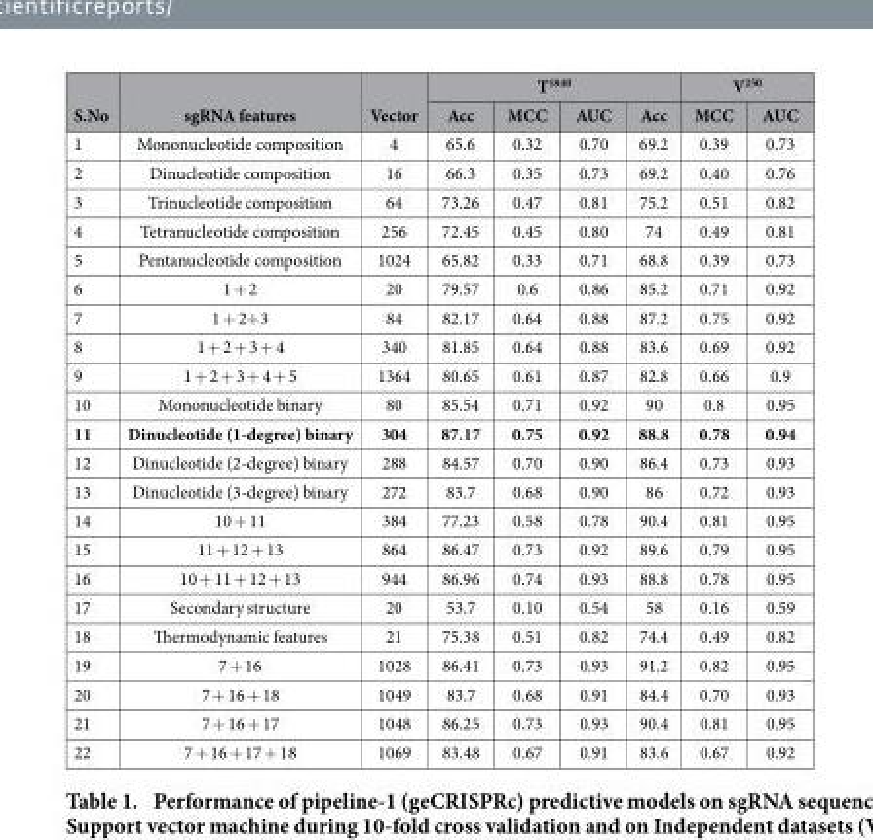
<table><thead><tr><td rowspan="2">S.No</td><td rowspan="2">sgRNA features</td><td rowspan="2">Vector</td><td colspan="4">T<sup>1840</sup></td><td colspan="2">V<sup>250</sup></td></tr><tr><td>Acc</td><td>MCC</td><td>AUC</td><td>Acc</td><td>MCC</td><td>AUC</td></tr></thead><tbody><tr><td>1</td><td>Mononucleotide composition</td><td>4</td><td>65.6</td><td>0.32</td><td>0.70</td><td>69.2</td><td>0.39</td><td>0.73</td></tr><tr><td>2</td><td>Dinucleotide composition</td><td>16</td><td>66.3</td><td>0.35</td><td>0.73</td><td>69.2</td><td>0.40</td><td>0.76</td></tr><tr><td>3</td><td>Trinucleotide composition</td><td>64</td><td>73.26</td><td>0.47</td><td>0.81</td><td>75.2</td><td>0.51</td><td>0.82</td></tr><tr><td>4</td><td>Tetranucleotide composition</td><td>256</td><td>72.45</td><td>0.45</td><td>0.80</td><td>74</td><td>0.49</td><td>0.81</td></tr><tr><td>5</td><td>Pentanucleotide composition</td><td>1024</td><td>65.82</td><td>0.33</td><td>0.71</td><td>68.8</td><td>0.39</td><td>0.73</td></tr><tr><td>6</td><td>1 + 2</td><td>20</td><td>79.57</td><td>0.6</td><td>0.86</td><td>85.2</td><td>0.71</td><td>0.92</td></tr><tr><td>7</td><td>1 + 2+ 3</td><td>84</td><td>82.17</td><td>0.64</td><td>0.88</td><td>87.2</td><td>0.75</td><td>0.92</td></tr><tr><td>8</td><td>1 + 2 + 3 + 4</td><td>340</td><td>81.85</td><td>0.64</td><td>0.88</td><td>83.6</td><td>0.69</td><td>0.92</td></tr><tr><td>9</td><td>1 + 2 + 3 + 4 + 5</td><td>1364</td><td>80.65</td><td>0.61</td><td>0.87</td><td>82.8</td><td>0.66</td><td>0.9</td></tr><tr><td>10</td><td>Mononucleotide binary</td><td>80</td><td>85.54</td><td>0.71</td><td>0.92</td><td>90</td><td>0.8</td><td>0.95</td></tr><tr><td>11</td><td>Dinucleotide (1-degree) binary</td><td>304</td><td>87.17</td><td>0.75</td><td>0.92</td><td>88.8</td><td>0.78</td><td>0.94</td></tr><tr><td>12</td><td>Dinucleotide (2-degree) binary</td><td>288</td><td>84.57</td><td>0.70</td><td>0.90</td><td>86.4</td><td>0.73</td><td>0.93</td></tr><tr><td>13</td><td>Dinucleotide (3-degree) binary</td><td>272</td><td>83.7</td><td>0.68</td><td>0.90</td><td>86</td><td>0.72</td><td>0.93</td></tr><tr><td>14</td><td>10 + 11</td><td>384</td><td>77.23</td><td>0.58</td><td>0.78</td><td>90.4</td><td>0.81</td><td>0.95</td></tr><tr><td>15</td><td>11 + 12 + 13</td><td>864</td><td>86.47</td><td>0.73</td><td>0.92</td><td>89.6</td><td>0.79</td><td>0.95</td></tr><tr><td>16</td><td>10 + 11 + 12 + 13</td><td>944</td><td>86.96</td><td>0.74</td><td>0.93</td><td>88.8</td><td>0.78</td><td>0.95</td></tr><tr><td>17</td><td>Secondary structure</td><td>20</td><td>53.7</td><td>0.10</td><td>0.54</td><td>58</td><td>0.16</td><td>0.59</td></tr><tr><td>18</td><td>Thermodynamic features</td><td>21</td><td>75.38</td><td>0.51</td><td>0.82</td><td>74.4</td><td>0.49</td><td>0.82</td></tr><tr><td>19</td><td>7 + 16</td><td>1028</td><td>86.41</td><td>0.73</td><td>0.93</td><td>91.2</td><td>0.82</td><td>0.95</td></tr><tr><td>20</td><td>7 + 16 + 18</td><td>1049</td><td>83.7</td><td>0.68</td><td>0.91</td><td>84.4</td><td>0.70</td><td>0.93</td></tr><tr><td>21</td><td>7 + 16 + 17</td><td>1048</td><td>86.25</td><td>0.73</td><td>0.93</td><td>90.4</td><td>0.81</td><td>0.95</td></tr><tr><td>22</td><td>7 + 16 + 17 + 18</td><td>1069</td><td>83.48</td><td>0.67</td><td>0.91</td><td>83.6</td><td>0.67</td><td>0.92</td></tr></tbody></table>